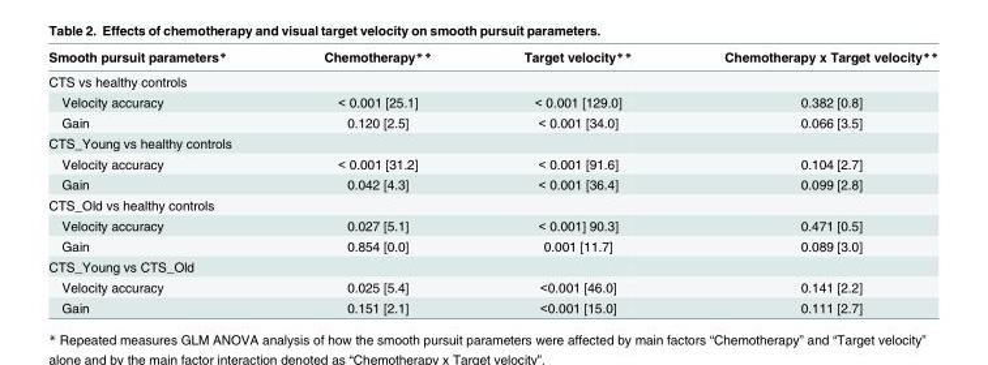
<table><thead><tr><td>Smooth pursuit parameters*</td><td>Chemotherapy**</td><td>Target velocity**</td><td>Chemotherapy x Target velocity**</td></tr></thead><tbody><tr><td colspan="4">CTS vs healthy controls</td></tr><tr><td>Velocity accuracy</td><td>&lt; 0.001 [25.1]</td><td>&lt; 0.001 [129.0]</td><td>0.382 [0.8]</td></tr><tr><td>Gain</td><td>0.120 [2.5]</td><td>&lt; 0.001 [34.0]</td><td>0.066 [3.5]</td></tr><tr><td colspan="4">CTS_Young vs healthy controls</td></tr><tr><td>Velocity accuracy</td><td>&lt; 0.001 [31.2]</td><td>&lt; 0.001 [91.6]</td><td>0.104 [2.7]</td></tr><tr><td>Gain</td><td>0.042 [4.3]</td><td>&lt; 0.001 [36.4]</td><td>0.099 [2.8]</td></tr><tr><td colspan="4">CTS_Old vs healthy controls</td></tr><tr><td>Velocity accuracy</td><td>0.027 [5.1]</td><td>&lt; 0.001] 90.3]</td><td>0.471 [0.5]</td></tr><tr><td>Gain</td><td>0.854 [0.0]</td><td>0.001 [11.7]</td><td>0.089 [3.0]</td></tr><tr><td colspan="4">CTS_Young vs CTS_Old</td></tr><tr><td>Velocity accuracy</td><td>0.025 [5.4]</td><td>&lt;0.001 [46.0]</td><td>0.141 [2.2]</td></tr><tr><td>Gain</td><td>0.151 [2.1]</td><td>&lt;0.001 [15.0]</td><td>0.111 [2.7]</td></tr></tbody></table>